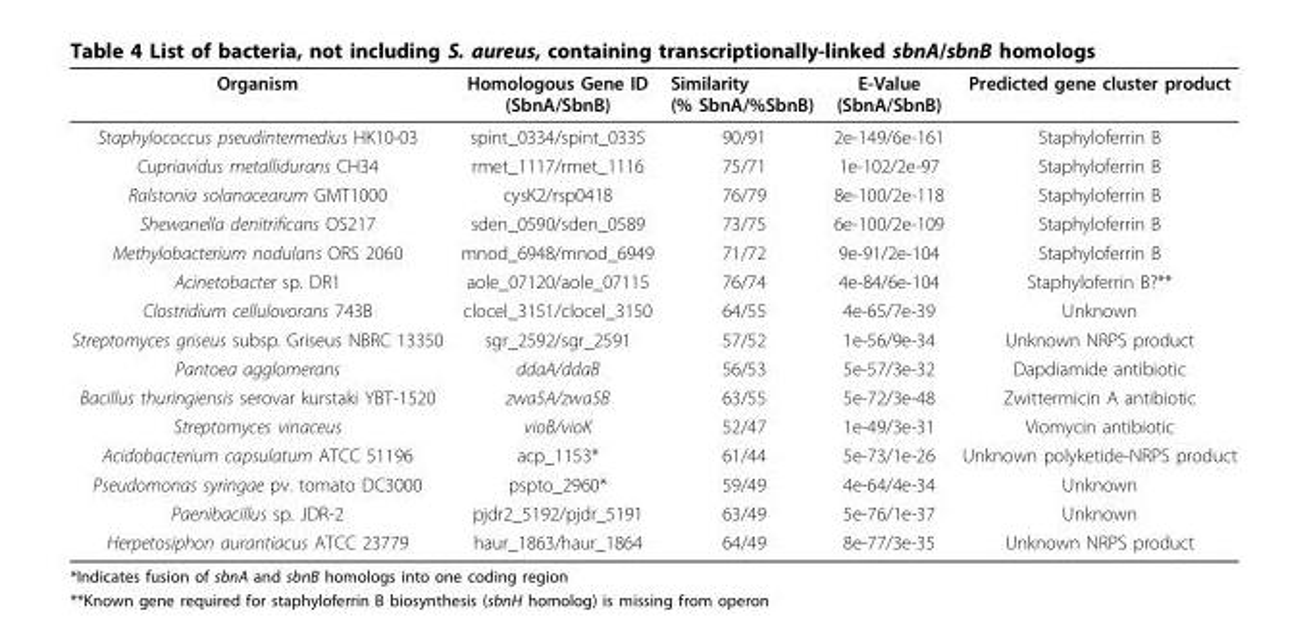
<table><thead><tr><td>Organism</td><td>Homologous Gene ID (SbnA/SbnB)</td><td>Similarity (% SbnA/%SbnB)</td><td>E-Value (SbnA/SbnB)</td><td>Predicted gene cluster product</td></tr></thead><tbody><tr><td>Staphylococcus pseudintermedius HK10-03</td><td>spint_0334/spint_0335</td><td>90/91</td><td>2e-149/6e-161</td><td>Staphyloferrin B</td></tr><tr><td>Cupriavidus metallidurans CH34</td><td>rmet_1117/rmet_1116</td><td>75/71</td><td>1e-102/2e-97</td><td>Staphyloferrin B</td></tr><tr><td>Ralstonia solanacearum GMT1000</td><td>cysK2/rsp0418</td><td>76/79</td><td>8e-100/2e-118</td><td>Staphyloferrin B</td></tr><tr><td>Shewanella denitrificans OS217</td><td>sden_0590/sden_0589</td><td>73/75</td><td>6e-100/2e-109</td><td>Staphyloferrin B</td></tr><tr><td>Methylobacterium nodulans ORS 2060</td><td>mnod_6948/mnod_6949</td><td>71/72</td><td>9e-91/2e-104</td><td>Staphyloferrin B</td></tr><tr><td>Acinetobacter sp. DR1</td><td>aole_07120/aole_07115</td><td>76/74</td><td>4e-84/6e-104</td><td>Staphyloferrin B?**</td></tr><tr><td>Clostridium cellulovorans 743B</td><td>clocel_3151/clocel_3150</td><td>64/55</td><td>4e-65/7e-39</td><td>Unknown</td></tr><tr><td>Streptomyces griseus subsp. Griseus NBRC 13350</td><td>sgr_2592/sgr_2591</td><td>57/52</td><td>1e-56/9e-34</td><td>Unknown NRPS product</td></tr><tr><td>Pantoea agglomerans</td><td>ddaA/ddaB</td><td>56/53</td><td>5e-57/3e-32</td><td>Dapdiamide antibiotic</td></tr><tr><td>Bacillus thuringiensis serovar kurstaki YBT-1520</td><td>zwa5A/zwa5B</td><td>63/55</td><td>5e-72/3e-48</td><td>Zwittermicin A antibiotic</td></tr><tr><td>Streptomyces vinaceus</td><td>vioB/vioK</td><td>52/47</td><td>1e-49/3e-31</td><td>Viomycin antibiotic</td></tr><tr><td>Acidobacterium capsulatum ATCC 51196</td><td>acp_1153*</td><td>61/44</td><td>5e-73/1e-26</td><td>Unknown polyketide-NRPS product</td></tr><tr><td>Pseudomonas syringae pv. tomato DC3000</td><td>pspto_2960*</td><td>59/49</td><td>4e-64/4e-34</td><td>Unknown</td></tr><tr><td>Paenibacillus sp. JDR-2</td><td>pjdr2_5192/pjdr_5191</td><td>63/49</td><td>5e-76/1e-37</td><td>Unknown</td></tr><tr><td>Herpetosiphon aurantiacus ATCC 23779</td><td>haur_1863/haur_1864</td><td>64/49</td><td>8e-77/3e-35</td><td>Unknown NRPS product</td></tr></tbody></table>